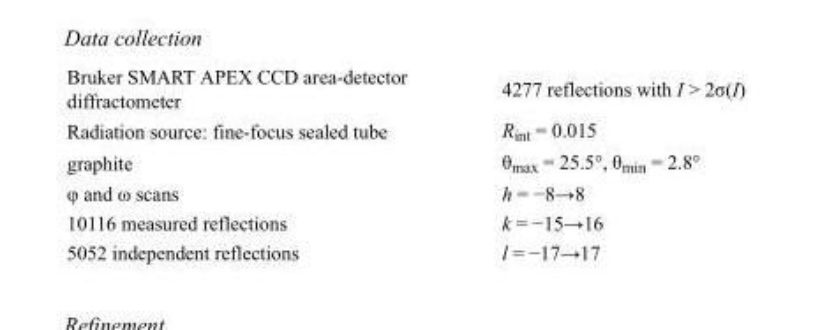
<table><tbody><tr><td>Bruker SMART APEX CCD area-detector diffractometer</td><td>4277 reflections with I &gt; 2σ(I)</td></tr><tr><td>Radiation source: fine-focus sealed tube</td><td>R<sub>int</sub> = 0.015</td></tr><tr><td>graphite</td><td>θ<sub>max</sub> = 25.5°, θ<sub>min</sub> = 2.8°</td></tr><tr><td>φ and ω scans</td><td>h = −8→8</td></tr><tr><td>10116 measured reflections</td><td>k = −15→16</td></tr><tr><td>5052 independent reflections</td><td>l = −17→17</td></tr></tbody></table>